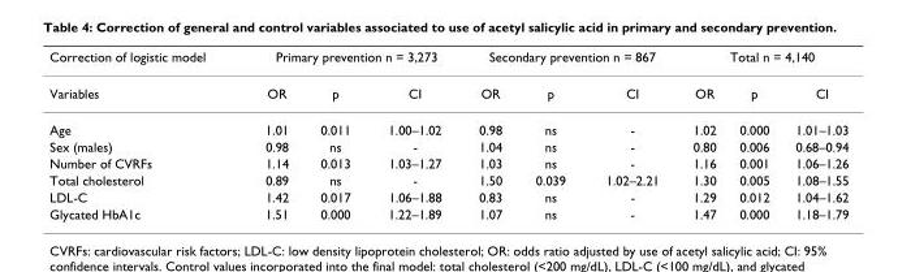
<table><thead><tr><td rowspan="2">Correction of logistic model Variables</td><td colspan="3">Primary prevention n = 3,273</td><td colspan="3">Secondary prevention n = 867</td><td colspan="3">Total n = 4,140</td></tr><tr><td>OR</td><td>p</td><td>CI</td><td>OR</td><td>p</td><td>CI</td><td>OR</td><td>p</td><td>CI</td></tr></thead><tbody><tr><td>Age</td><td>1.01</td><td>0.011</td><td>1.00–1.02</td><td>0.98</td><td>ns</td><td>-</td><td>1.02</td><td>0.000</td><td>1.01–1.03</td></tr><tr><td>Sex (males)</td><td>0.98</td><td>ns</td><td>-</td><td>1.04</td><td>ns</td><td>-</td><td>0.80</td><td>0.006</td><td>0.68–0.94</td></tr><tr><td>Number of CVRFs</td><td>1.14</td><td>0.013</td><td>1.03–1.27</td><td>1.03</td><td>ns</td><td>-</td><td>1.16</td><td>0.001</td><td>1.06–1.26</td></tr><tr><td>Total cholesterol</td><td>0.89</td><td>ns</td><td>-</td><td>1.50</td><td>0.039</td><td>1.02–2.21</td><td>1.30</td><td>0.005</td><td>1.08–1.55</td></tr><tr><td>LDL-C</td><td>1.42</td><td>0.017</td><td>1.06–1.88</td><td>0.83</td><td>ns</td><td>-</td><td>1.29</td><td>0.012</td><td>1.04–1.62</td></tr><tr><td>Glycated HbA1c</td><td>1.51</td><td>0.000</td><td>1.22–1.89</td><td>1.07</td><td>ns</td><td>-</td><td>1.47</td><td>0.000</td><td>1.18–1.79</td></tr></tbody></table>